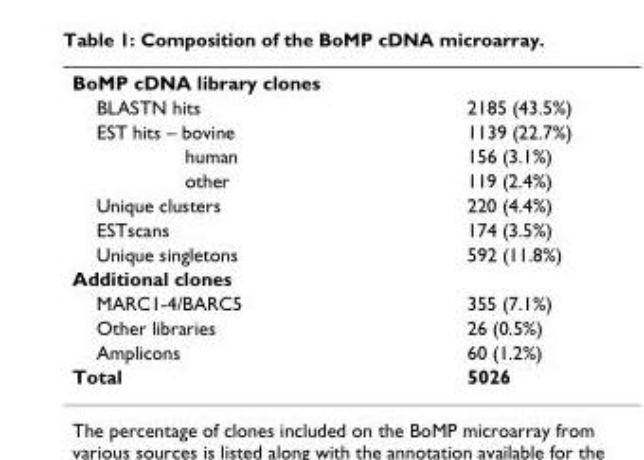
<table><tbody><tr><td colspan="2">BoMP cDNA library clones</td></tr><tr><td>BLASTN hits</td><td>2185 (43.5%)</td></tr><tr><td>EST hits – bovine</td><td>1139 (22.7%)</td></tr><tr><td>human</td><td>156 (3.1%)</td></tr><tr><td>other</td><td>119 (2.4%)</td></tr><tr><td>Unique clusters</td><td>220 (4.4%)</td></tr><tr><td>ESTscans</td><td>174 (3.5%)</td></tr><tr><td>Unique singletons</td><td>592 (11.8%)</td></tr><tr><td colspan="2">Additional clones</td></tr><tr><td>MARC1-4/BARC5</td><td>355 (7.1%)</td></tr><tr><td>Other libraries</td><td>26 (0.5%)</td></tr><tr><td>Amplicons</td><td>60 (1.2%)</td></tr><tr><td>Total</td><td>5026</td></tr></tbody></table>